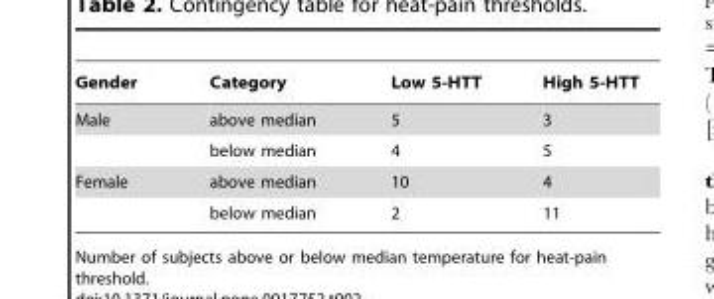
<table><thead><tr><td>Gender</td><td>Category</td><td>Low 5-HTT</td><td>High 5-HTT</td></tr></thead><tbody><tr><td rowspan="2">Male</td><td>above median</td><td>5</td><td>3</td></tr><tr><td>below median</td><td>4</td><td>5</td></tr><tr><td rowspan="2">Female</td><td>above median</td><td>10</td><td>4</td></tr><tr><td>below median</td><td>2</td><td>11</td></tr></tbody></table>